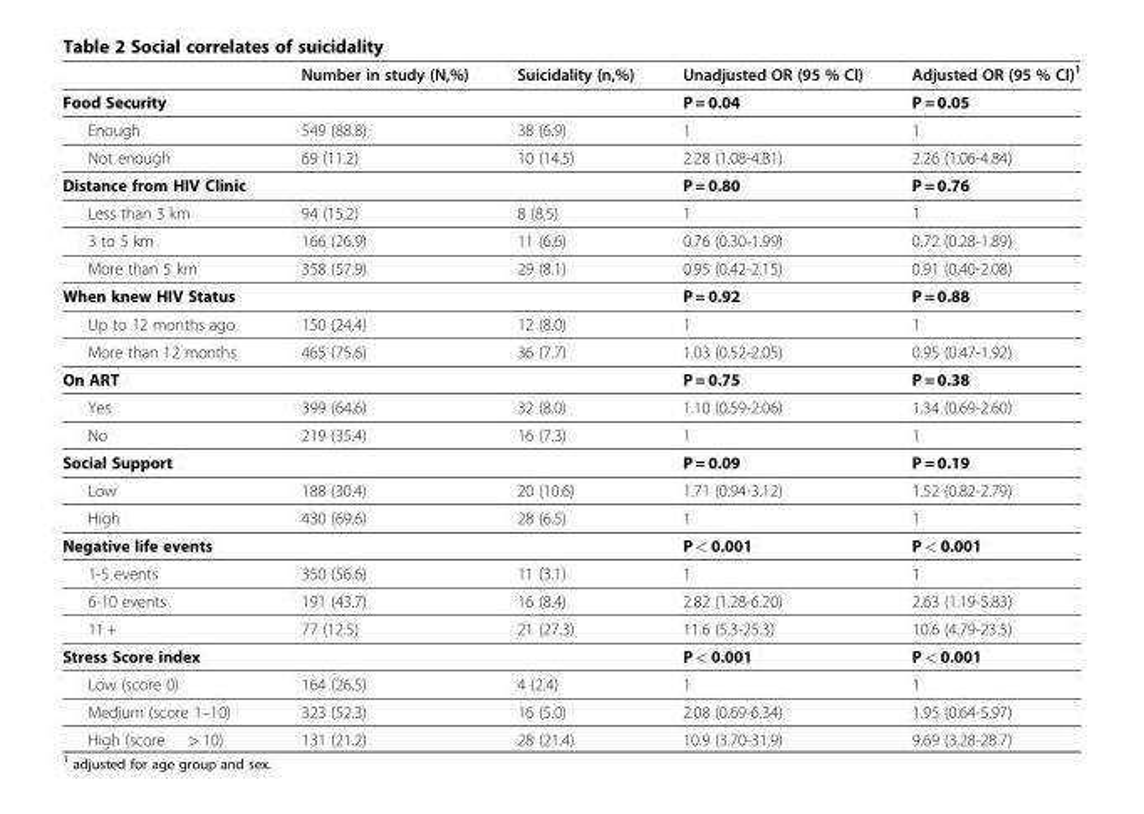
<table><thead><tr><td></td><td>Number in study (N,%)</td><td>Suicidality (n,%)</td><td>Unadjusted OR (95 % CI)</td><td>Adjusted OR (95 % CI)<sup>1</sup></td></tr></thead><tbody><tr><td>Food Security</td><td></td><td></td><td>P = 0.04</td><td>P = 0.05</td></tr><tr><td>Enough</td><td>549 (88.8)</td><td>38 (6.9)</td><td>1</td><td>1</td></tr><tr><td>Not enough</td><td>69 (11.2)</td><td>10 (14.5)</td><td>2.28 (1.08-4.81)</td><td>2.26 (1.06-4.84)</td></tr><tr><td>Distance from HIV Clinic</td><td></td><td></td><td>P = 0.80</td><td>P = 0.76</td></tr><tr><td>Less than 3 km</td><td>94 (15.2)</td><td>8 (8.5)</td><td>1</td><td>1</td></tr><tr><td>3 to 5 km</td><td>166 (26.9)</td><td>11 (6.6)</td><td>0.76 (0.30-1.99)</td><td>0.72 (0.28-1.89)</td></tr><tr><td>More than 5 km</td><td>358 (57.9)</td><td>29 (8.1)</td><td>0.95 (0.42-2.15)</td><td>0.91 (0.40-2.08)</td></tr><tr><td>When knew HIV Status</td><td></td><td></td><td>P = 0.92</td><td>P = 0.88</td></tr><tr><td>Up to 12 months ago</td><td>150 (24.4)</td><td>12 (8.0)</td><td>1</td><td>1</td></tr><tr><td>More than 12 months</td><td>465 (75.6)</td><td>36 (7.7)</td><td>1.03 (0.52-2.05)</td><td>0.95 (0.47-1.92)</td></tr><tr><td>On ART</td><td></td><td></td><td>P = 0.75</td><td>P = 0.38</td></tr><tr><td>Yes</td><td>399 (64.6)</td><td>32 (8.0)</td><td>1.10 (0.59-2.06)</td><td>1.34 (0.69-2.60)</td></tr><tr><td>No</td><td>219 (35.4)</td><td>16 (7.3)</td><td>1</td><td>1</td></tr><tr><td>Social Support</td><td></td><td></td><td>P = 0.09</td><td>P = 0.19</td></tr><tr><td>Low</td><td>188 (30.4)</td><td>20 (10.6)</td><td>1.71 (0.94-3.12)</td><td>1.52 (0.82-2.79)</td></tr><tr><td>High</td><td>430 (69.6)</td><td>28 (6.5)</td><td>1</td><td>1</td></tr><tr><td>Negative life events</td><td></td><td></td><td>P &lt; 0.001</td><td>P &lt; 0.001</td></tr><tr><td>1-5 events</td><td>350 (56.6)</td><td>11 (3.1)</td><td>1</td><td>1</td></tr><tr><td>6-10 events</td><td>191 (43.7)</td><td>16 (8.4)</td><td>2.82 (1.28-6.20)</td><td>2.63 (1.19-5.83)</td></tr><tr><td>11 +</td><td>77 (12.5)</td><td>21 (27.3)</td><td>11.6 (5.3-25.3)</td><td>10.6 (4.79-23.5)</td></tr><tr><td>Stress Score index</td><td></td><td></td><td>P &lt; 0.001</td><td>P &lt; 0.001</td></tr><tr><td>Low (score 0)</td><td>164 (26.5)</td><td>4 (2.4)</td><td>1</td><td>1</td></tr><tr><td>Medium (score 1–10)</td><td>323 (52.3)</td><td>16 (5.0)</td><td>2.08 (0.69-6.34)</td><td>1.95 (0.64-5.97)</td></tr><tr><td>High (score &gt; 10)</td><td>131 (21.2)</td><td>28 (21.4)</td><td>10.9 (3.70-31.9)</td><td>9.69 (3.28-28.7)</td></tr></tbody></table>